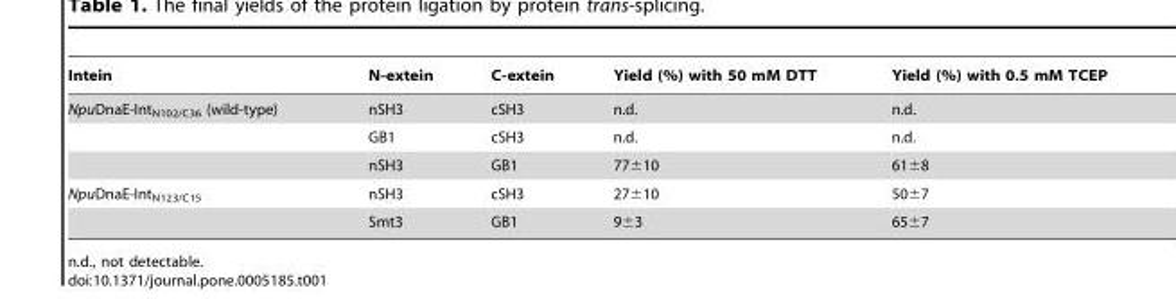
<table><thead><tr><td>Intein</td><td>N-extein</td><td>C-extein</td><td>Yield (%) with 50 mM DTT</td><td>Yield (%) with 0.5 mM TCEP</td></tr></thead><tbody><tr><td rowspan="3">NpuDnaE-Int<sub>N102/C36</sub> (wild-type)</td><td>nSH3</td><td>cSH3</td><td>n.d.</td><td>n.d.</td></tr><tr><td>GB1</td><td>cSH3</td><td>n.d.</td><td>n.d.</td></tr><tr><td>nSH3</td><td>GB1</td><td>77±10</td><td>61±8</td></tr><tr><td rowspan="2">NpuDnaE-Int<sub>N123/C15</sub></td><td>nSH3</td><td>cSH3</td><td>27±10</td><td>50±7</td></tr><tr><td>Smt3</td><td>GB1</td><td>9±3</td><td>65±7</td></tr></tbody></table>